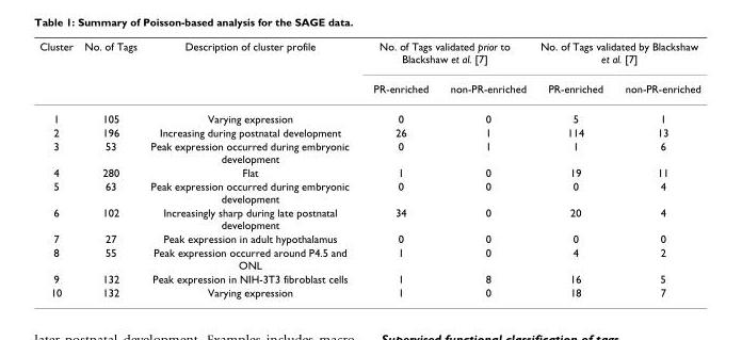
<table><thead><tr><td rowspan="2">Cluster</td><td rowspan="2">No. of Tags</td><td rowspan="2">Description of cluster profile</td><td colspan="2">No. of Tags validated prior to Blackshaw et al. [7]</td><td colspan="2">No. of Tags validated by Blackshaw et al. [7]</td></tr><tr><td>PR-enriched</td><td>non-PR-enriched</td><td>PR-enriched</td><td>non-PR-enriched</td></tr></thead><tbody><tr><td>1</td><td>105</td><td>Varying expression</td><td>0</td><td>0</td><td>5</td><td>1</td></tr><tr><td>2</td><td>196</td><td>Increasing during postnatal development</td><td>26</td><td>1</td><td>114</td><td>13</td></tr><tr><td>3</td><td>53</td><td>Peak expression occurred during embryonic development</td><td>0</td><td>1</td><td>1</td><td>6</td></tr><tr><td>4</td><td>280</td><td>Flat</td><td>1</td><td>0</td><td>19</td><td>11</td></tr><tr><td>5</td><td>63</td><td>Peak expression occurred during embryonic development</td><td>0</td><td>0</td><td>0</td><td>4</td></tr><tr><td>6</td><td>102</td><td>Increasingly sharp during late postnatal development</td><td>34</td><td>0</td><td>20</td><td>4</td></tr><tr><td>7</td><td>27</td><td>Peak expression in adult hypothalamus</td><td>0</td><td>0</td><td>0</td><td>0</td></tr><tr><td>8</td><td>55</td><td>Peak expression occurred around P4.5 and ONL</td><td>1</td><td>0</td><td>4</td><td>2</td></tr><tr><td>9</td><td>132</td><td>Peak expression in NIH-3T3 fibroblast cells</td><td>1</td><td>8</td><td>16</td><td>5</td></tr><tr><td>10</td><td>132</td><td>Varying expression</td><td>1</td><td>0</td><td>18</td><td>7</td></tr></tbody></table>